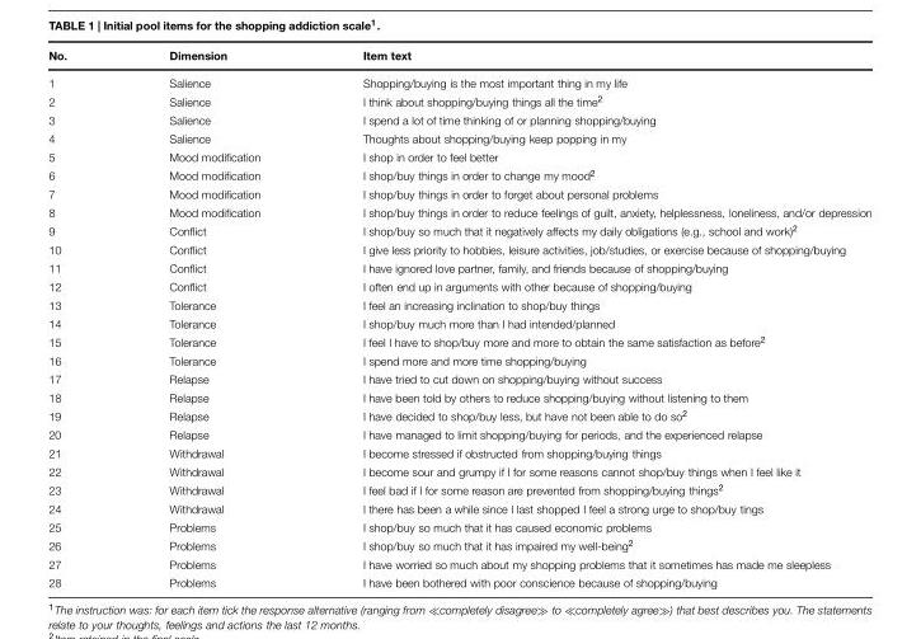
<table><thead><tr><td>No.</td><td>Dimension</td><td>Item text</td></tr></thead><tbody><tr><td>1</td><td>Salience</td><td>Shopping/buying is the most important thing in my life</td></tr><tr><td>2</td><td>Salience</td><td>I think about shopping/buying things all the time<sup>2</sup></td></tr><tr><td>3</td><td>Salience</td><td>I spend a lot of time thinking of or planning shopping/buying</td></tr><tr><td>4</td><td>Salience</td><td>Thoughts about shopping/buying keep popping in my</td></tr><tr><td>5</td><td>Mood modification</td><td>I shop in order to feel better</td></tr><tr><td>6</td><td>Mood modification</td><td>I shop/buy things in order to change my mood<sup>2</sup></td></tr><tr><td>7</td><td>Mood modification</td><td>I shop/buy things in order to forget about personal problems</td></tr><tr><td>8</td><td>Mood modification</td><td>I shop/buy things in order to reduce feelings of guilt, anxiety, helplessness, loneliness, and/or depression</td></tr><tr><td>9</td><td>Conflict</td><td>I shop/buy so much that it negatively affects my daily obligations (e.g., school and work)<sup>2</sup></td></tr><tr><td>10</td><td>Conflict</td><td>I give less priority to hobbies, leisure activities, job/studies, or exercise because of shopping/buying</td></tr><tr><td>11</td><td>Conflict</td><td>I have ignored love partner, family, and friends because of shopping/buying</td></tr><tr><td>12</td><td>Conflict</td><td>I often end up in arguments with other because of shopping/buying</td></tr><tr><td>13</td><td>Tolerance</td><td>I feel an increasing inclination to shop/buy things</td></tr><tr><td>14</td><td>Tolerance</td><td>I shop/buy much more than I had intended/planned</td></tr><tr><td>15</td><td>Tolerance</td><td>I feel I have to shop/buy more and more to obtain the same satisfaction as before<sup>2</sup></td></tr><tr><td>16</td><td>Tolerance</td><td>I spend more and more time shopping/buying</td></tr><tr><td>17</td><td>Relapse</td><td>I have tried to cut down on shopping/buying without success</td></tr><tr><td>18</td><td>Relapse</td><td>I have been told by others to reduce shopping/buying without listening to them</td></tr><tr><td>19</td><td>Relapse</td><td>I have decided to shop/buy less, but have not been able to do so<sup>2</sup></td></tr><tr><td>20</td><td>Relapse</td><td>I have managed to limit shopping/buying for periods, and the experienced relapse</td></tr><tr><td>21</td><td>Withdrawal</td><td>I become stressed if obstructed from shopping/buying things</td></tr><tr><td>22</td><td>Withdrawal</td><td>I become sour and grumpy if I for some reasons cannot shop/buy things when I feel like it</td></tr><tr><td>23</td><td>Withdrawal</td><td>I feel bad if I for some reason are prevented from shopping/buying things<sup>2</sup></td></tr><tr><td>24</td><td>Withdrawal</td><td>I there has been a while since I last shopped I feel a strong urge to shop/buy tings</td></tr><tr><td>25</td><td>Problems</td><td>I shop/buy so much that it has caused economic problems</td></tr><tr><td>26</td><td>Problems</td><td>I shop/buy so much that it has impaired my well-being<sup>2</sup></td></tr><tr><td>27</td><td>Problems</td><td>I have worried so much about my shopping problems that it sometimes has made me sleepless</td></tr><tr><td>28</td><td>Problems</td><td>I have been bothered with poor conscience because of shopping/buying</td></tr></tbody></table>